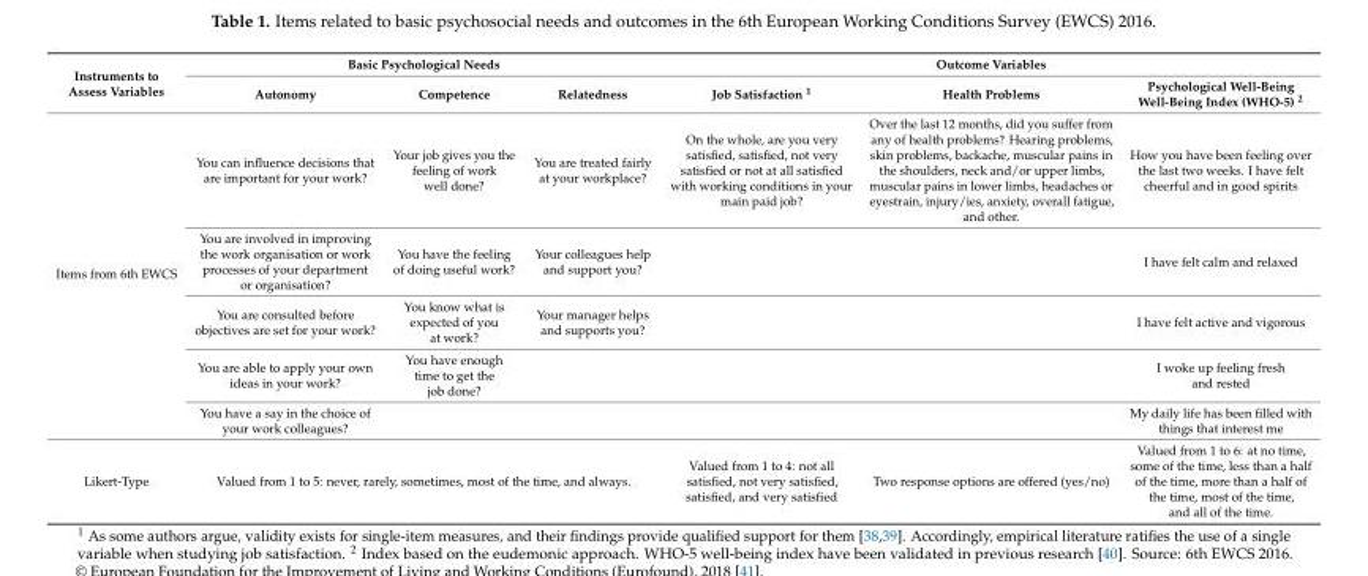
<table><thead><tr><td rowspan="2">Instruments to Assess Variables</td><td colspan="3">Basic Psychological Needs</td><td colspan="3">Outcome Variables</td></tr><tr><td>Autonomy</td><td>Competence</td><td>Relatedness</td><td>Job Satisfaction <sup>1</sup></td><td>Health Problems</td><td>Psychological Well-Being Well-Being Index (WHO-5) <sup>2</sup></td></tr></thead><tbody><tr><td rowspan="5">Items from 6th EWCS</td><td>You can influence decisions that are important for your work?</td><td>Your job gives you the feeling of work well done?</td><td>You are treated fairly at your workplace?</td><td>On the whole, are you very satisfied, satisfied, not very satisfied or not at all satisfied with working conditions in your main paid job?</td><td>Over the last 12 months, did you suffer from any of health problems? Hearing problems, skin problems, backache, muscular pains in the shoulders, neck and/or upper limbs, muscular pains in lower limbs, headaches or eyestrain, injury/ies, anxiety, overall fatigue, and other.</td><td>How you have been feeling over the last two weeks. I have felt cheerful and in good spirits</td></tr><tr><td>You are involved in improving the work organisation or work processes of your department or organisation?</td><td>You have the feeling of doing useful work?</td><td>Your colleagues help and support you?</td><td></td><td></td><td>I have felt calm and relaxed</td></tr><tr><td>You are consulted before objectives are set for your work?</td><td>You know what is expected of you at work?</td><td>Your manager helps and supports you?</td><td></td><td></td><td>I have felt active and vigorous</td></tr><tr><td>You are able to apply your own ideas in your work?</td><td>You have enough time to get the job done?</td><td></td><td></td><td></td><td>I woke up feeling fresh and rested</td></tr><tr><td>You have a say in the choice of your work colleagues?</td><td colspan="2"></td><td></td><td></td><td>My daily life has been filled with things that interest me</td></tr><tr><td>Likert-Type</td><td colspan="3">Valued from 1 to 5: never, rarely, sometimes, most of the time, and always.</td><td>Valued from 1 to 4: not all satisfied, not very satisfied, satisfied, and very satisfied</td><td>Two response options are offered (yes/no)</td><td>Valued from 1 to 6: at no time, some of the time, less than a half of the time, more than a half of the time, most of the time, and all of the time.</td></tr></tbody></table>